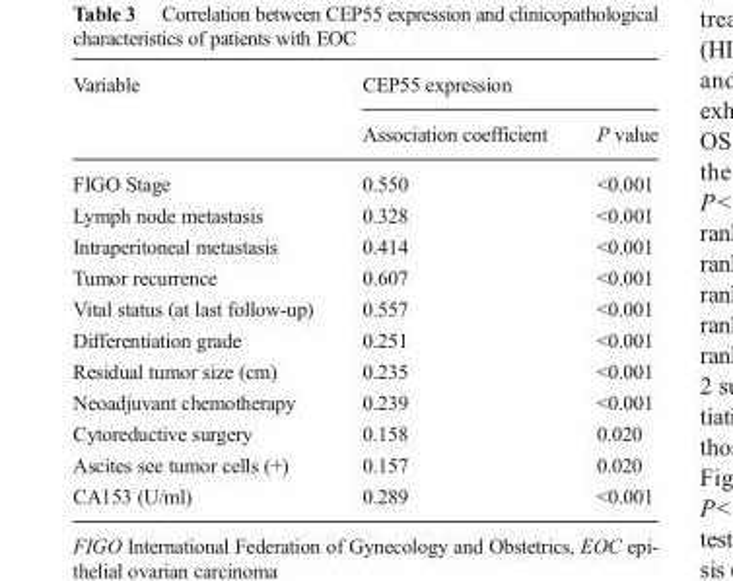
<table><thead><tr><td rowspan="2">Variable</td><td colspan="2">CEP55 expression</td></tr><tr><td>Association coefficient</td><td>P value</td></tr></thead><tbody><tr><td>FIGO Stage</td><td>0.550</td><td>&lt;0.001</td></tr><tr><td>Lymph node metastasis</td><td>0.328</td><td>&lt;0.001</td></tr><tr><td>Intraperitoneal metastasis</td><td>0.414</td><td>&lt;0.001</td></tr><tr><td>Tumor recurrence</td><td>0.607</td><td>&lt;0.001</td></tr><tr><td>Vital status (at last follow-up)</td><td>0.557</td><td>&lt;0.001</td></tr><tr><td>Differentiation grade</td><td>0.251</td><td>&lt;0.001</td></tr><tr><td>Residual tumor size (cm)</td><td>0.235</td><td>&lt;0.001</td></tr><tr><td>Neoadjuvant chemotherapy</td><td>0.239</td><td>&lt;0.001</td></tr><tr><td>Cytoreductive surgery</td><td>0.158</td><td>0.020</td></tr><tr><td>Ascites see tumor cells (+)</td><td>0.157</td><td>0.020</td></tr><tr><td>CA153 (U/ml)</td><td>0.289</td><td>&lt;0.001</td></tr></tbody></table>